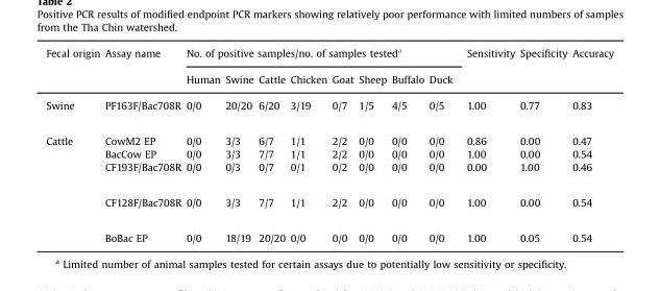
<table><thead><tr><td rowspan="2">Fecal origin</td><td rowspan="2">Assay name</td><td colspan="8">No. of positive samples/no. of samples tested<sup>a</sup></td><td rowspan="2">Sensitivity</td><td rowspan="2">Specificity</td><td rowspan="2">Accuracy</td></tr><tr><td>Human</td><td>Swine</td><td>Cattle</td><td>Chicken</td><td>Goat</td><td>Sheep</td><td>Buffalo</td><td>Duck</td></tr></thead><tbody><tr><td>Swine</td><td>PF163F/Bac708R</td><td>0/0</td><td>20/20</td><td>6/20</td><td>3/19</td><td>0/7</td><td>1/5</td><td>4/5</td><td>0/5</td><td>1.00</td><td>0.77</td><td>0.83</td></tr><tr><td rowspan="5">Cattle</td><td>CowM2 EP</td><td>0/0</td><td>3/3</td><td>6/7</td><td>1/1</td><td>2/2</td><td>0/0</td><td>0/0</td><td>0/0</td><td>0.86</td><td>0.00</td><td>0.47</td></tr><tr><td>BacCow EP</td><td>0/0</td><td>3/3</td><td>7/7</td><td>1/1</td><td>2/2</td><td>0/0</td><td>0/0</td><td>0/0</td><td>1.00</td><td>0.00</td><td>0.54</td></tr><tr><td>CF193F/Bac708R</td><td>0/0</td><td>0/3</td><td>0/7</td><td>0/1</td><td>0/2</td><td>0/0</td><td>0/0</td><td>0/0</td><td>0.00</td><td>1.00</td><td>0.46</td></tr><tr><td>CF128F/Bac708R</td><td>0/0</td><td>3/3</td><td>7/7</td><td>1/1</td><td>2/2</td><td>0/0</td><td>0/0</td><td>0/0</td><td>1.00</td><td>0.00</td><td>0.54</td></tr><tr><td>BoBac EP</td><td>0/0</td><td>18/19</td><td>20/20</td><td>0/0</td><td>0/0</td><td>0/0</td><td>0/0</td><td>0/0</td><td>1.00</td><td>0.05</td><td>0.54</td></tr></tbody></table>